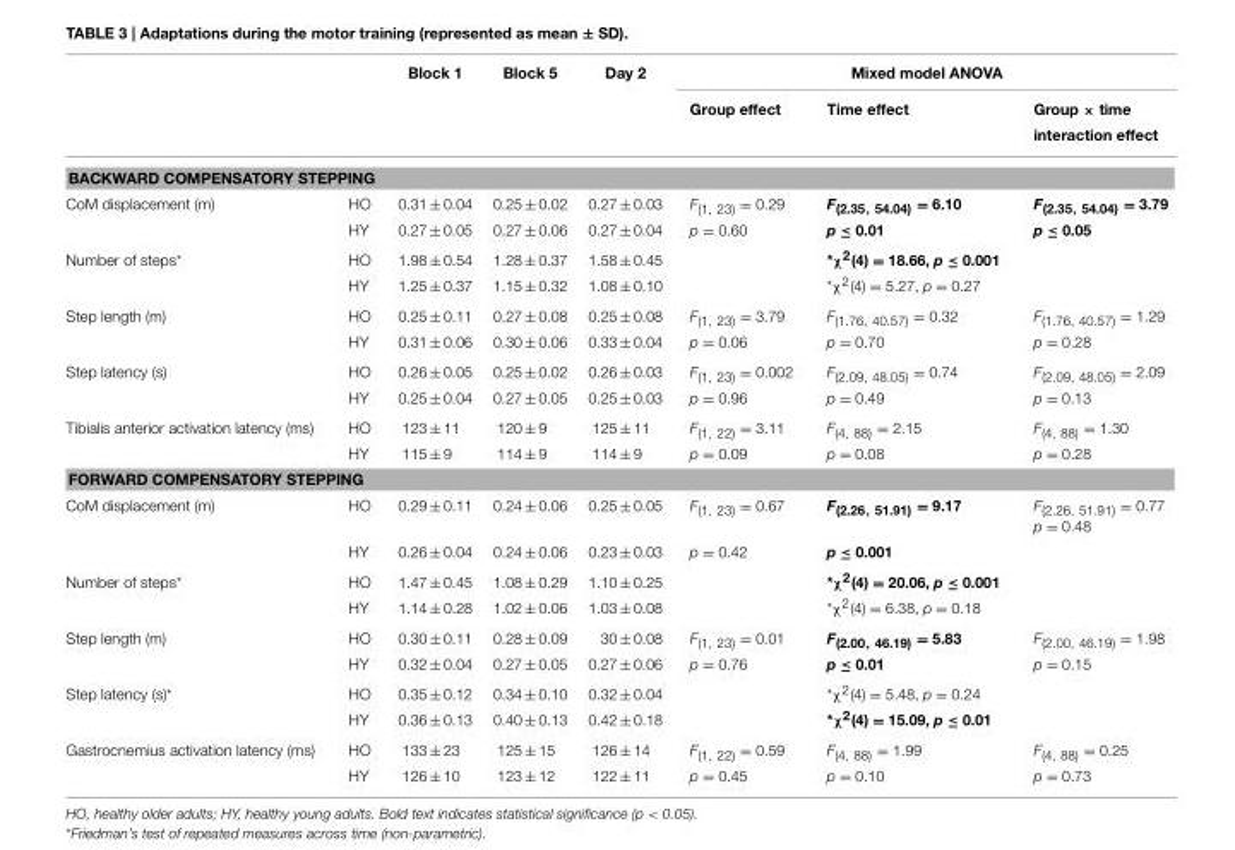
<table><thead><tr><td rowspan="2"></td><td rowspan="2"></td><td rowspan="2">Block 1</td><td rowspan="2">Block 5</td><td rowspan="2">Day 2</td><td colspan="3">Mixed model ANOVA</td></tr><tr><td>Group effect</td><td>Time effect</td><td>Group × time interaction effect</td></tr></thead><tbody><tr><td colspan="8">BACKWARD COMPENSATORY STEPPING</td></tr><tr><td rowspan="2">CoM displacement (m)</td><td>HO</td><td>0.31 ± 0.04</td><td>0.25 ± 0.02</td><td>0.27 ± 0.03</td><td>F<sub>(1, 23)</sub> = 0.29</td><td>F<sub>(2.35, 54.04)</sub> = 6.10</td><td>F<sub>(2.35, 54.04)</sub> = 3.79</td></tr><tr><td>HY</td><td>0.27 ± 0.05</td><td>0.27 ± 0.06</td><td>0.27 ± 0.04</td><td>p = 0.60</td><td>p ≤ 0.01</td><td>p ≤ 0.05</td></tr><tr><td rowspan="2">Number of steps*</td><td>HO</td><td>1.98 ± 0.54</td><td>1.28 ± 0.37</td><td>1.58 ± 0.45</td><td></td><td>*χ<sup>2</sup>(4) = 18.66, p ≤ 0.001</td><td></td></tr><tr><td>HY</td><td>1.25 ± 0.37</td><td>1.15 ± 0.32</td><td>1.08 ± 0.10</td><td></td><td>*χ<sup>2</sup>(4) = 5.27, p = 0.27</td><td></td></tr><tr><td rowspan="2">Step length (m)</td><td>HO</td><td>0.25 ± 0.11</td><td>0.27 ± 0.08</td><td>0.25 ± 0.08</td><td>F<sub>(1, 23)</sub> = 3.79</td><td>F<sub>(1.76, 40.57)</sub> = 0.32</td><td>F<sub>(1.76, 40.57)</sub> = 1.29</td></tr><tr><td>HY</td><td>0.31 ± 0.06</td><td>0.30 ± 0.06</td><td>0.33 ± 0.04</td><td>p = 0.06</td><td>p = 0.70</td><td>p = 0.28</td></tr><tr><td rowspan="2">Step latency (s)</td><td>HO</td><td>0.26 ± 0.05</td><td>0.25 ± 0.02</td><td>0.26 ± 0.03</td><td>F<sub>(1, 23)</sub> = 0.002</td><td>F<sub>(2.09, 48.05)</sub> = 0.74</td><td>F<sub>(2.09, 48.05)</sub> = 2.09</td></tr><tr><td>HY</td><td>0.25 ± 0.04</td><td>0.27 ± 0.05</td><td>0.25 ± 0.03</td><td>p = 0.96</td><td>p = 0.49</td><td>p = 0.13</td></tr><tr><td rowspan="2">Tibialis anterior activation latency (ms)</td><td>HO</td><td>123 ± 11</td><td>120 ± 9</td><td>125 ± 11</td><td>F<sub>(1, 22)</sub> = 3.11</td><td>F<sub>(4, 88)</sub> = 2.15</td><td>F<sub>(4, 88)</sub> = 1.30</td></tr><tr><td>HY</td><td>115 ± 9</td><td>114 ± 9</td><td>114 ± 9</td><td>p = 0.09</td><td>p = 0.08</td><td>p = 0.28</td></tr><tr><td colspan="8">FORWARD COMPENSATORY STEPPING</td></tr><tr><td rowspan="2">CoM displacement (m)</td><td>HO</td><td>0.29 ± 0.11</td><td>0.24 ± 0.06</td><td>0.25 ± 0.05</td><td>F<sub>(1, 23)</sub> = 0.67</td><td>F<sub>(2.26, 51.91)</sub> = 9.17</td><td>F<sub>(2.26, 51.91)</sub> = 0.77 p = 0.48</td></tr><tr><td>HY</td><td>0.26 ± 0.04</td><td>0.24 ± 0.06</td><td>0.23 ± 0.03</td><td>p = 0.42</td><td>p ≤ 0.001</td><td></td></tr><tr><td rowspan="2">Number of steps*</td><td>HO</td><td>1.47 ± 0.45</td><td>1.08 ± 0.29</td><td>1.10 ± 0.25</td><td></td><td>*χ<sup>2</sup>(4) = 20.06, p ≤ 0.001</td><td></td></tr><tr><td>HY</td><td>1.14 ± 0.28</td><td>1.02 ± 0.06</td><td>1.03 ± 0.08</td><td></td><td>*χ<sup>2</sup>(4) = 6.38, p = 0.18</td><td></td></tr><tr><td rowspan="2">Step length (m)</td><td>HO</td><td>0.30 ± 0.11</td><td>0.28 ± 0.09</td><td>30 ± 0.08</td><td>F<sub>(1, 23)</sub> = 0.01</td><td>F<sub>(2.00, 46.19)</sub> = 5.83</td><td>F<sub>(2.00, 46.19)</sub> = 1.98</td></tr><tr><td>HY</td><td>0.32 ± 0.04</td><td>0.27 ± 0.05</td><td>0.27 ± 0.06</td><td>p = 0.76</td><td>p ≤ 0.01</td><td>p = 0.15</td></tr><tr><td rowspan="2">Step latency (s)*</td><td>HO</td><td>0.35 ± 0.12</td><td>0.34 ± 0.10</td><td>0.32 ± 0.04</td><td></td><td>*χ<sup>2</sup>(4) = 5.48, p = 0.24</td><td></td></tr><tr><td>HY</td><td>0.36 ± 0.13</td><td>0.40 ± 0.13</td><td>0.42 ± 0.18</td><td></td><td>*χ<sup>2</sup>(4) = 15.09, p ≤ 0.01</td><td></td></tr><tr><td rowspan="2">Gastrocnemius activation latency (ms)</td><td>HO</td><td>133 ± 23</td><td>125 ± 15</td><td>126 ± 14</td><td>F<sub>(1, 22)</sub> = 0.59</td><td>F<sub>(4, 88)</sub> = 1.99</td><td>F<sub>(4, 88)</sub> = 0.25</td></tr><tr><td>HY</td><td>126 ± 10</td><td>123 ± 12</td><td>122 ± 11</td><td>p = 0.45</td><td>p = 0.10</td><td>p = 0.73</td></tr></tbody></table>